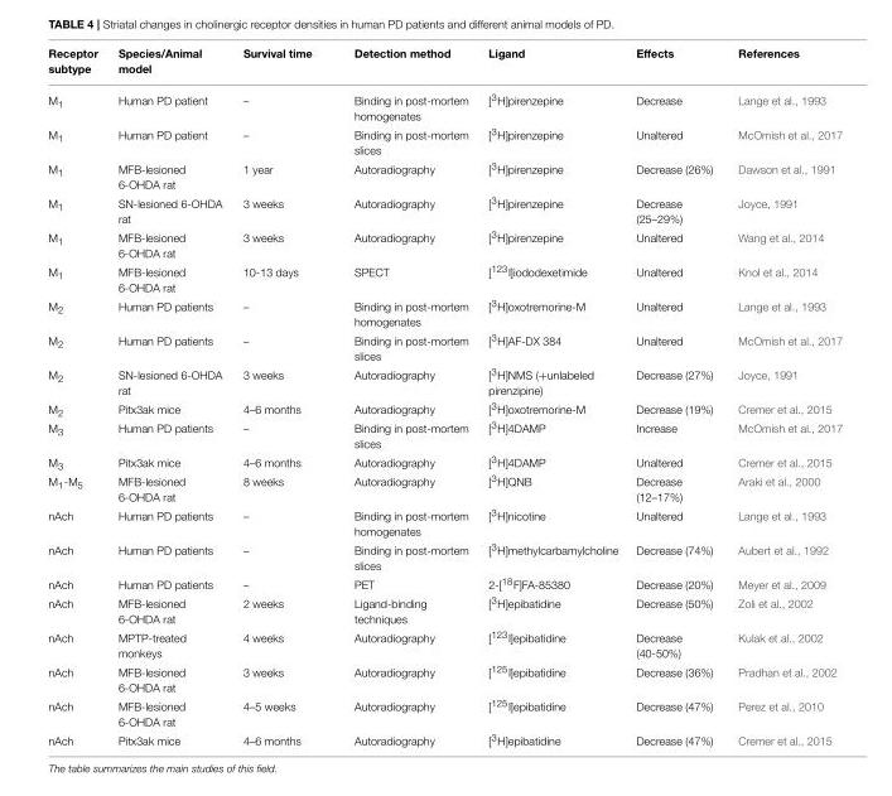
<table><thead><tr><td>Receptor subtype</td><td>Species/Animal model</td><td>Survival time</td><td>Detection method</td><td>Ligand</td><td>Effects</td><td>References</td></tr></thead><tbody><tr><td>M<sub>1</sub></td><td>Human PD patient</td><td>–</td><td>Binding in post-mortem homogenates</td><td>[<sup>3</sup>H]pirenzepine</td><td>Decrease</td><td>Lange et al., 1993</td></tr><tr><td>M<sub>1</sub></td><td>Human PD patient</td><td>–</td><td>Binding in post-mortem slices</td><td>[<sup>3</sup>H]pirenzepine</td><td>Unaltered</td><td>McOmish et al., 2017</td></tr><tr><td>M<sub>1</sub></td><td>MFB-lesioned 6-OHDA rat</td><td>1 year</td><td>Autoradiography</td><td>[<sup>3</sup>H]pirenzepine</td><td>Decrease (26%)</td><td>Dawson et al., 1991</td></tr><tr><td>M<sub>1</sub></td><td>SN-lesioned 6-OHDA rat</td><td>3 weeks</td><td>Autoradiography</td><td>[<sup>3</sup>H]pirenzepine</td><td>Decrease (25–29%)</td><td>Joyce, 1991</td></tr><tr><td>M<sub>1</sub></td><td>MFB-lesioned 6-OHDA rat</td><td>3 weeks</td><td>Autoradiography</td><td>[<sup>3</sup>H]pirenzepine</td><td>Unaltered</td><td>Wang et al., 2014</td></tr><tr><td>M<sub>1</sub></td><td>MFB-lesioned 6-OHDA rat</td><td>10-13 days</td><td>SPECT</td><td>[<sup>123</sup>I]iododexetimide</td><td>Unaltered</td><td>Knol et al., 2014</td></tr><tr><td>M<sub>2</sub></td><td>Human PD patients</td><td>–</td><td>Binding in post-mortem homogenates</td><td>[<sup>3</sup>H]oxotremorine-M</td><td>Unaltered</td><td>Lange et al., 1993</td></tr><tr><td>M<sub>2</sub></td><td>Human PD patients</td><td>–</td><td>Binding in post-mortem slices</td><td>[<sup>3</sup>H]AF-DX 384</td><td>Unaltered</td><td>McOmish et al., 2017</td></tr><tr><td>M<sub>2</sub></td><td>SN-lesioned 6-OHDA rat</td><td>3 weeks</td><td>Autoradiography</td><td>[<sup>3</sup>H]NMS (+unlabeled pirenzipine)</td><td>Decrease (27%)</td><td>Joyce, 1991</td></tr><tr><td>M<sub>2</sub></td><td>Pitx3ak mice</td><td>4–6 months</td><td>Autoradiography</td><td>[<sup>3</sup>H]oxotremorine-M</td><td>Decrease (19%)</td><td>Cremer et al., 2015</td></tr><tr><td>M<sub>3</sub></td><td>Human PD patients</td><td>–</td><td>Binding in post-mortem slices</td><td>[<sup>3</sup>H]4DAMP</td><td>Increase</td><td>McOmish et al., 2017</td></tr><tr><td>M<sub>3</sub></td><td>Pitx3ak mice</td><td>4–6 months</td><td>Autoradiography</td><td>[<sup>3</sup>H]4DAMP</td><td>Unaltered</td><td>Cremer et al., 2015</td></tr><tr><td>M<sub>1</sub>-M<sub>5</sub></td><td>MFB-lesioned 6-OHDA rat</td><td>8 weeks</td><td>Autoradiography</td><td>[<sup>3</sup>H]QNB</td><td>Decrease (12–17%)</td><td>Araki et al., 2000</td></tr><tr><td>nAch</td><td>Human PD patients</td><td>–</td><td>Binding in post-mortem homogenates</td><td>[<sup>3</sup>H]nicotine</td><td>Unaltered</td><td>Lange et al., 1993</td></tr><tr><td>nAch</td><td>Human PD patients</td><td>–</td><td>Binding in post-mortem slices</td><td>[<sup>3</sup>H]methylcarbamylcholine</td><td>Decrease (74%)</td><td>Aubert et al., 1992</td></tr><tr><td>nAch</td><td>Human PD patients</td><td>–</td><td>PET</td><td>2-[<sup>18</sup>F]FA-85380</td><td>Decrease (20%)</td><td>Meyer et al., 2009</td></tr><tr><td>nAch</td><td>MFB-lesioned 6-OHDA rat</td><td>2 weeks</td><td>Ligand-binding techniques</td><td>[<sup>3</sup>H]epibatidine</td><td>Decrease (50%)</td><td>Zoli et al., 2002</td></tr><tr><td>nAch</td><td>MPTP-treated monkeys</td><td>4 weeks</td><td>Autoradiography</td><td>[<sup>123</sup>I]epibatidine</td><td>Decrease (40-50%)</td><td>Kulak et al., 2002</td></tr><tr><td>nAch</td><td>MFB-lesioned 6-OHDA rat</td><td>3 weeks</td><td>Autoradiography</td><td>[<sup>125</sup>I]epibatidine</td><td>Decrease (36%)</td><td>Pradhan et al., 2002</td></tr><tr><td>nAch</td><td>MFB-lesioned 6-OHDA rat</td><td>4–5 weeks</td><td>Autoradiography</td><td>[<sup>125</sup>I]epibatidine</td><td>Decrease (47%)</td><td>Perez et al., 2010</td></tr><tr><td>nAch</td><td>Pitx3ak mice</td><td>4–6 months</td><td>Autoradiography</td><td>[<sup>3</sup>H]epibatidine</td><td>Decrease (47%)</td><td>Cremer et al., 2015</td></tr></tbody></table>